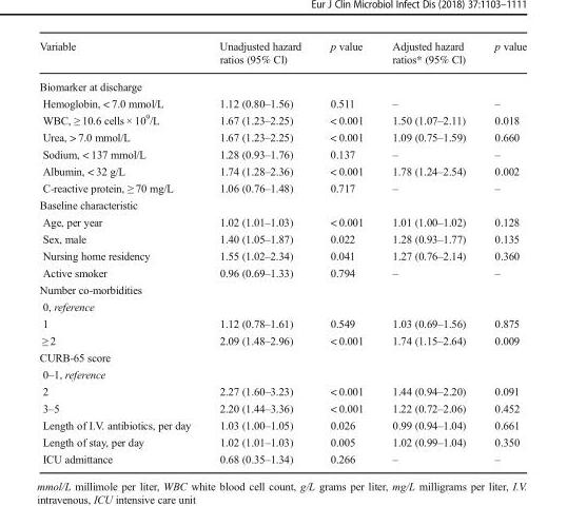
<table><thead><tr><td>Variable</td><td>Unadjusted hazard ratios (95% Cl)</td><td>p value</td><td>Adjusted hazard ratios* (95% Cl)</td><td>p value</td></tr></thead><tbody><tr><td colspan="5">Biomarker at discharge</td></tr><tr><td>Hemoglobin, &lt; 7.0 mmol/L</td><td>1.12 (0.80–1.56)</td><td>0.511</td><td>–</td><td>–</td></tr><tr><td>WBC, ≥ 10.6 cells × 10<sup>9</sup>/L</td><td>1.67 (1.23–2.25)</td><td>&lt; 0.001</td><td>1.50 (1.07–2.11)</td><td>0.018</td></tr><tr><td>Urea, &gt; 7.0 mmol/L</td><td>1.67 (1.23–2.25)</td><td>&lt; 0.001</td><td>1.09 (0.75–1.59)</td><td>0.660</td></tr><tr><td>Sodium, &lt; 137 mmol/L</td><td>1.28 (0.93–1.76)</td><td>0.137</td><td>–</td><td>–</td></tr><tr><td>Albumin, &lt; 32 g/L</td><td>1.74 (1.28–2.36)</td><td>&lt; 0.001</td><td>1.78 (1.24–2.54)</td><td>0.002</td></tr><tr><td>C-reactive protein, ≥ 70 mg/L</td><td>1.06 (0.76–1.48)</td><td>0.717</td><td>–</td><td>–</td></tr><tr><td colspan="5">Baseline characteristic</td></tr><tr><td>Age, per year</td><td>1.02 (1.01–1.03)</td><td>&lt; 0.001</td><td>1.01 (1.00–1.02)</td><td>0.128</td></tr><tr><td>Sex, male</td><td>1.40 (1.05–1.87)</td><td>0.022</td><td>1.28 (0.93–1.77)</td><td>0.135</td></tr><tr><td>Nursing home residency</td><td>1.55 (1.02–2.34)</td><td>0.041</td><td>1.27 (0.76–2.14)</td><td>0.360</td></tr><tr><td>Active smoker</td><td>0.96 (0.69–1.33)</td><td>0.794</td><td>–</td><td>–</td></tr><tr><td colspan="5">Number co-morbidities</td></tr><tr><td colspan="5">0, reference</td></tr><tr><td>1</td><td>1.12 (0.78–1.61)</td><td>0.549</td><td>1.03 (0.69–1.56)</td><td>0.875</td></tr><tr><td>≥ 2</td><td>2.09 (1.48–2.96)</td><td>&lt; 0.001</td><td>1.74 (1.15–2.64)</td><td>0.009</td></tr><tr><td colspan="5">CURB-65 score</td></tr><tr><td colspan="5">0–1, reference</td></tr><tr><td>2</td><td>2.27 (1.60–3.23)</td><td>&lt; 0.001</td><td>1.44 (0.94–2.20)</td><td>0.091</td></tr><tr><td>3–5</td><td>2.20 (1.44–3.36)</td><td>&lt; 0.001</td><td>1.22 (0.72–2.06)</td><td>0.452</td></tr><tr><td>Length of I.V. antibiotics, per day</td><td>1.03 (1.00–1.05)</td><td>0.026</td><td>0.99 (0.94–1.04)</td><td>0.661</td></tr><tr><td>Length of stay, per day</td><td>1.02 (1.01–1.03)</td><td>0.005</td><td>1.02 (0.99–1.04)</td><td>0.350</td></tr><tr><td>ICU admittance</td><td>0.68 (0.35–1.34)</td><td>0.266</td><td>–</td><td>–</td></tr></tbody></table>